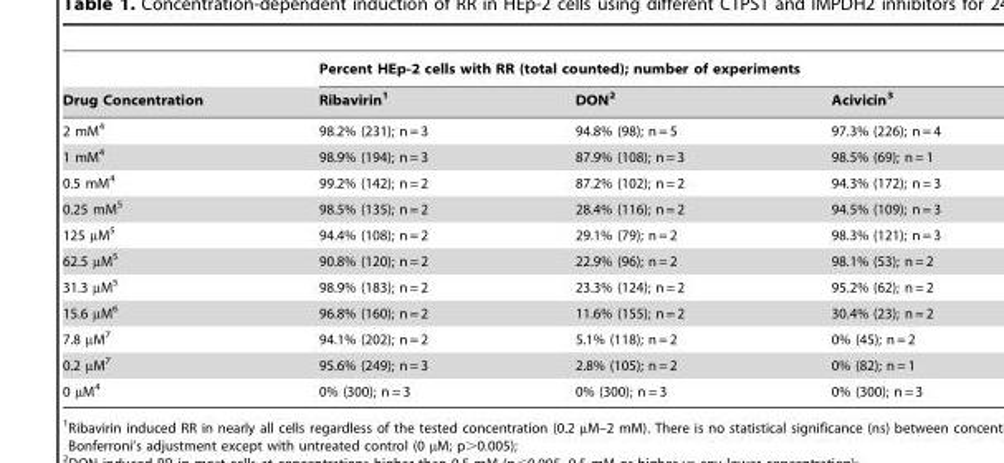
<table><thead><tr><td rowspan="2">Drug Concentration</td><td colspan="3">Percent HEp-2 cells with RR (total counted); number of experiments</td></tr><tr><td>Ribavirin<sup>1</sup></td><td>DON<sup>2</sup></td><td>Acivicin<sup>3</sup></td></tr></thead><tbody><tr><td>2 mM<sup>4</sup></td><td>98.2% (231); n = 3</td><td>94.8% (98); n = 5</td><td>97.3% (226); n = 4</td></tr><tr><td>1 mM<sup>4</sup></td><td>98.9% (194); n = 3</td><td>87.9% (108); n = 3</td><td>98.5% (69); n = 1</td></tr><tr><td>0.5 mM<sup>4</sup></td><td>99.2% (142); n = 2</td><td>87.2% (102); n = 2</td><td>94.3% (172); n = 3</td></tr><tr><td>0.25 mM<sup>5</sup></td><td>98.5% (135); n = 2</td><td>28.4% (116); n = 2</td><td>94.5% (109); n = 3</td></tr><tr><td>125 µM<sup>5</sup></td><td>94.4% (108); n = 2</td><td>29.1% (79); n = 2</td><td>98.3% (121); n = 3</td></tr><tr><td>62.5 µM<sup>5</sup></td><td>90.8% (120); n = 2</td><td>22.9% (96); n = 2</td><td>98.1% (53); n = 2</td></tr><tr><td>31.3 µM<sup>5</sup></td><td>98.9% (183); n = 2</td><td>23.3% (124); n = 2</td><td>95.2% (62); n = 2</td></tr><tr><td>15.6 µM<sup>6</sup></td><td>96.8% (160); n = 2</td><td>11.6% (155); n = 2</td><td>30.4% (23); n = 2</td></tr><tr><td>7.8 µM<sup>7</sup></td><td>94.1% (202); n = 2</td><td>5.1% (118); n = 2</td><td>0% (45); n = 2</td></tr><tr><td>0.2 µM<sup>7</sup></td><td>95.6% (249); n = 3</td><td>2.8% (105); n = 2</td><td>0% (82); n = 1</td></tr><tr><td>0 µM<sup>4</sup></td><td>0% (300); n = 3</td><td>0% (300); n = 3</td><td>0% (300); n = 3</td></tr></tbody></table>